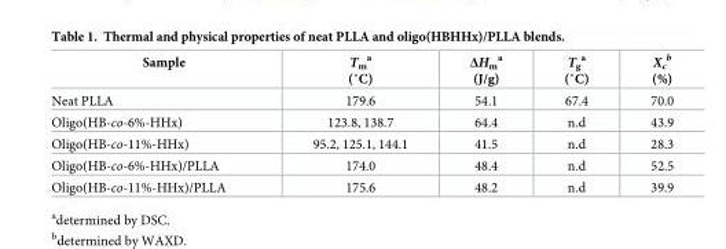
<table><thead><tr><td>Sample</td><td>Tm a (˚C)</td><td>ΔH<sub>m</sub> <sup>a</sup> (J/g)</td><td>Tg a (˚C)</td><td>X<sub>c</sub> <sup>b</sup> (%)</td></tr></thead><tbody><tr><td>Neat PLLA</td><td>179.6</td><td>54.1</td><td>67.4</td><td>70.0</td></tr><tr><td>Oligo(HB-co-6%-HHx)</td><td>123.8, 138.7</td><td>64.4</td><td>n.d</td><td>43.9</td></tr><tr><td>Oligo(HB-co-11%-HHx)</td><td>95.2, 125.1, 144.1</td><td>41.5</td><td>n.d</td><td>28.3</td></tr><tr><td>Oligo(HB-co-6%-HHx)/PLLA</td><td>174.0</td><td>48.4</td><td>n.d</td><td>52.5</td></tr><tr><td>Oligo(HB-co-11%-HHx)/PLLA</td><td>175.6</td><td>48.2</td><td>n.d</td><td>39.9</td></tr></tbody></table>